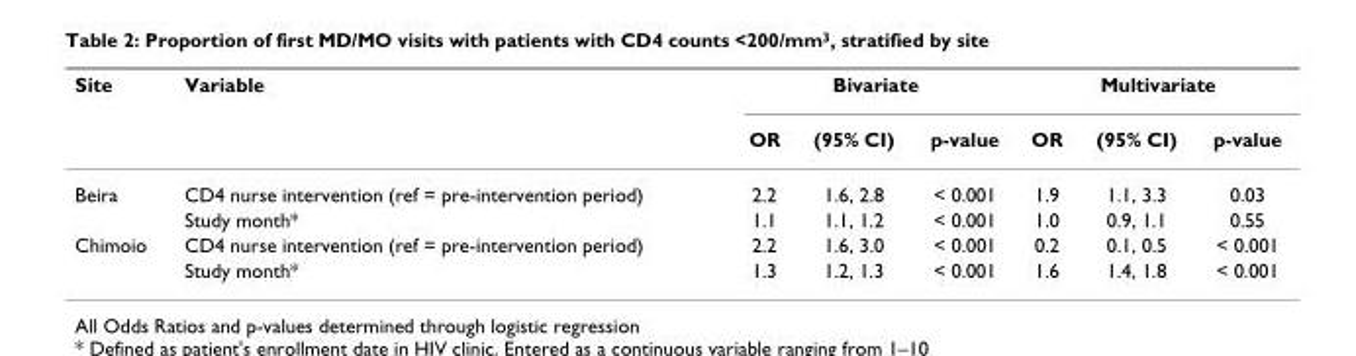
<table><thead><tr><td rowspan="2">Site</td><td rowspan="2">Variable</td><td colspan="3">Bivariate</td><td colspan="3">Multivariate</td></tr><tr><td>OR</td><td>(95% CI)</td><td>p-value</td><td>OR</td><td>(95% CI)</td><td>p-value</td></tr></thead><tbody><tr><td rowspan="2">Beira</td><td>CD4 nurse intervention (ref = pre-intervention period)</td><td>2.2</td><td>1.6, 2.8</td><td>&lt; 0.001</td><td>1.9</td><td>1.1, 3.3</td><td>0.03</td></tr><tr><td>Study month*</td><td>1.1</td><td>1.1, 1.2</td><td>&lt; 0.001</td><td>1.0</td><td>0.9, 1.1</td><td>0.55</td></tr><tr><td rowspan="2">Chimoio</td><td>CD4 nurse intervention (ref = pre-intervention period)</td><td>2.2</td><td>1.6, 3.0</td><td>&lt; 0.001</td><td>0.2</td><td>0.1, 0.5</td><td>&lt; 0.001</td></tr><tr><td>Study month*</td><td>1.3</td><td>1.2, 1.3</td><td>&lt; 0.001</td><td>1.6</td><td>1.4, 1.8</td><td>&lt; 0.001</td></tr></tbody></table>